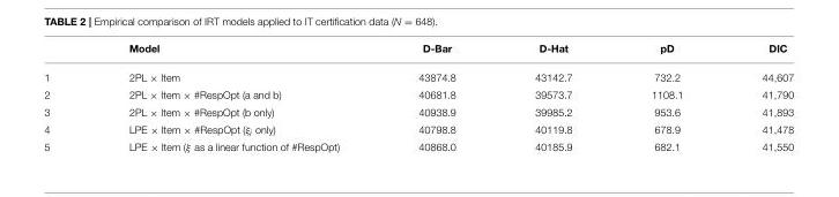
<table><thead><tr><td></td><td>Model</td><td>D-Bar</td><td>D-Hat</td><td>pD</td><td>DIC</td></tr></thead><tbody><tr><td>1</td><td>2PL × Item</td><td>43874.8</td><td>43142.7</td><td>732.2</td><td>44,607</td></tr><tr><td>2</td><td>2PL × Item × #RespOpt (a and b)</td><td>40681.8</td><td>39573.7</td><td>1108.1</td><td>41,790</td></tr><tr><td>3</td><td>2PL × Item × #RespOpt (b only)</td><td>40938.9</td><td>39985.2</td><td>953.6</td><td>41,893</td></tr><tr><td>4</td><td>LPE × Item × #RespOpt (ξ<sub>i</sub> only)</td><td>40798.8</td><td>40119.8</td><td>678.9</td><td>41,478</td></tr><tr><td>5</td><td>LPE × Item (ξ as a linear function of #RespOpt)</td><td>40868.0</td><td>40185.9</td><td>682.1</td><td>41,550</td></tr></tbody></table>